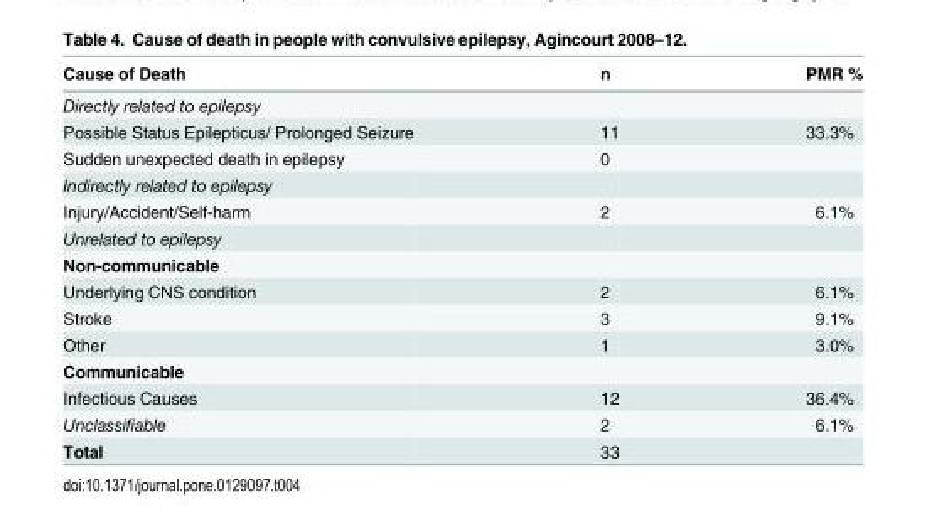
<table><thead><tr><td>Cause of Death</td><td>n</td><td>PMR %</td></tr></thead><tbody><tr><td colspan="3">Directly related to epilepsy</td></tr><tr><td>Possible Status Epilepticus/ Prolonged Seizure</td><td>11</td><td>33.3%</td></tr><tr><td>Sudden unexpected death in epilepsy</td><td>0</td><td></td></tr><tr><td colspan="3">Indirectly related to epilepsy</td></tr><tr><td>Injury/Accident/Self-harm</td><td>2</td><td>6.1%</td></tr><tr><td colspan="3">Unrelated to epilepsy</td></tr><tr><td colspan="3">Non-communicable</td></tr><tr><td>Underlying CNS condition</td><td>2</td><td>6.1%</td></tr><tr><td>Stroke</td><td>3</td><td>9.1%</td></tr><tr><td>Other</td><td>1</td><td>3.0%</td></tr><tr><td colspan="3">Communicable</td></tr><tr><td>Infectious Causes</td><td>12</td><td>36.4%</td></tr><tr><td>Unclassifiable</td><td>2</td><td>6.1%</td></tr><tr><td>Total</td><td>33</td><td></td></tr></tbody></table>